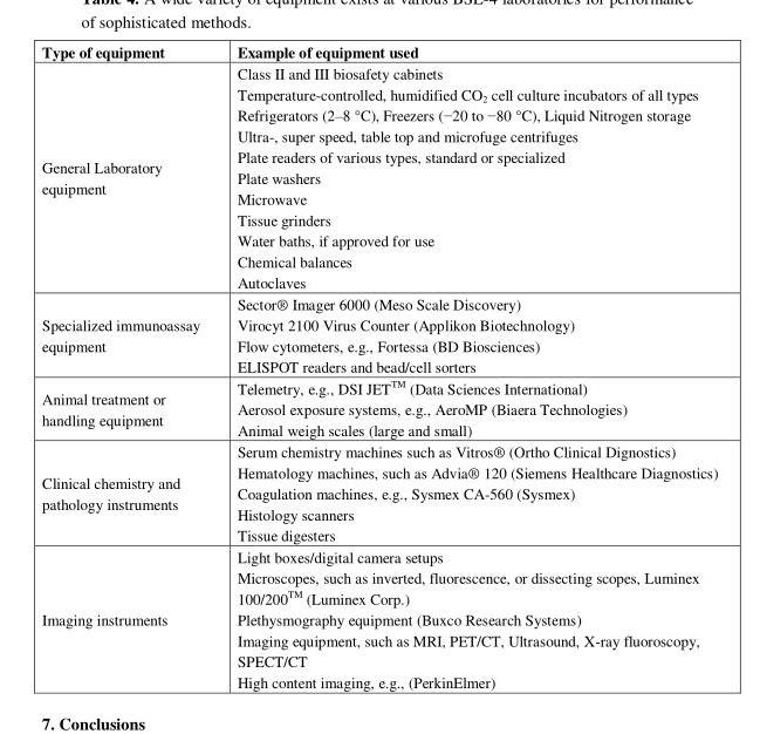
<table><thead><tr><td>Type of equipment</td><td>Example of equipment used</td></tr></thead><tbody><tr><td>General Laboratory equipment</td><td>Class II and III biosafety cabinets Temperature-controlled, humidified CO<sub>2</sub> cell culture incubators of all types Refrigerators (2–8 °C), Freezers (−20 to −80 °C), Liquid Nitrogen storage Ultra-, super speed, table top and microfuge centrifuges Plate readers of various types, standard or specialized Plate washers Microwave Tissue grinders Water baths, if approved for use Chemical balances Autoclaves</td></tr><tr><td>Specialized immunoassay equipment</td><td>Sector® Imager 6000 (Meso Scale Discovery) Virocyt 2100 Virus Counter (Applikon Biotechnology) Flow cytometers, e.g., Fortessa (BD Biosciences) ELISPOT readers and bead/cell sorters</td></tr><tr><td>Animal treatment or handling equipment</td><td>Telemetry, e.g., DSI JET<sup>TM</sup> (Data Sciences International) Aerosol exposure systems, e.g., AeroMP (Biaera Technologies) Animal weigh scales (large and small)</td></tr><tr><td>Clinical chemistry and pathology instruments</td><td>Serum chemistry machines such as Vitros® (Ortho Clinical Dignostics) Hematology machines, such as Advia® 120 (Siemens Healthcare Diagnostics) Coagulation machines, e.g., Sysmex CA-560 (Sysmex) Histology scanners Tissue digesters</td></tr><tr><td>Imaging instruments</td><td>Light boxes/digital camera setups Microscopes, such as inverted, fluorescence, or dissecting scopes, Luminex 100/200<sup>TM</sup> (Luminex Corp.) Plethysmography equipment (Buxco Research Systems) Imaging equipment, such as MRI, PET/CT, Ultrasound, X-ray fluoroscopy, SPECT/CT High content imaging, e.g., (PerkinElmer)</td></tr></tbody></table>